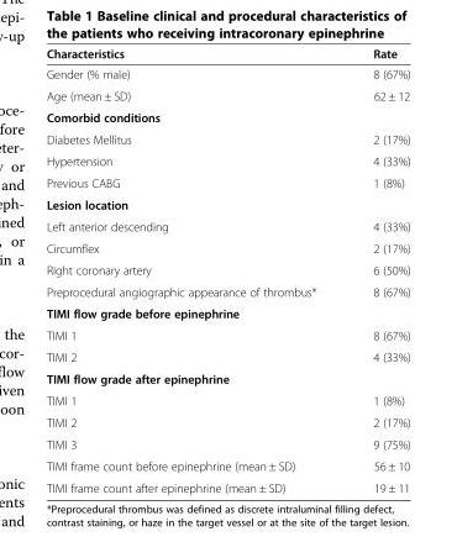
<table><thead><tr><td>Characteristics</td><td>Rate</td></tr></thead><tbody><tr><td>Gender (% male)</td><td>8 (67%)</td></tr><tr><td>Age (mean ± SD)</td><td>62 ± 12</td></tr><tr><td colspan="2">Comorbid conditions</td></tr><tr><td>Diabetes Mellitus</td><td>2 (17%)</td></tr><tr><td>Hypertension</td><td>4 (33%)</td></tr><tr><td>Previous CABG</td><td>1 (8%)</td></tr><tr><td colspan="2">Lesion location</td></tr><tr><td>Left anterior descending</td><td>4 (33%)</td></tr><tr><td>Circumflex</td><td>2 (17%)</td></tr><tr><td>Right coronary artery</td><td>6 (50%)</td></tr><tr><td>Preprocedural angiographic appearance of thrombus*</td><td>8 (67%)</td></tr><tr><td colspan="2">TIMI flow grade before epinephrine</td></tr><tr><td>TIMI 1</td><td>8 (67%)</td></tr><tr><td>TIMI 2</td><td>4 (33%)</td></tr><tr><td colspan="2">TIMI flow grade after epinephrine</td></tr><tr><td>TIMI 1</td><td>1 (8%)</td></tr><tr><td>TIMI 2</td><td>2 (17%)</td></tr><tr><td>TIMI 3</td><td>9 (75%)</td></tr><tr><td>TIMI frame count before epinephrine (mean ± SD)</td><td>56 ± 10</td></tr><tr><td>TIMI frame count after epinephrine (mean ± SD)</td><td>19 ± 11</td></tr></tbody></table>